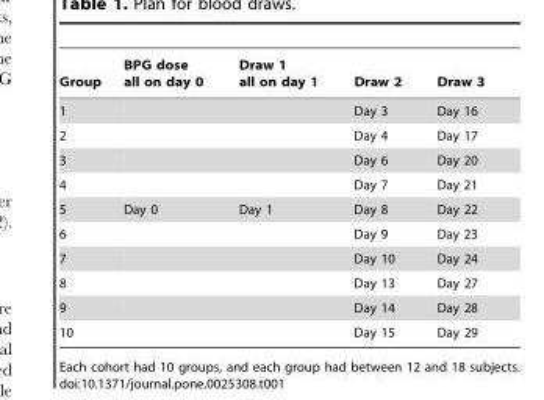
<table><thead><tr><td>Group</td><td>BPG dose all on day 0</td><td>Draw 1 all on day 1</td><td>Draw 2</td><td>Draw 3</td></tr></thead><tbody><tr><td>1</td><td></td><td></td><td>Day 3</td><td>Day 16</td></tr><tr><td>2</td><td></td><td></td><td>Day 4</td><td>Day 17</td></tr><tr><td>3</td><td></td><td></td><td>Day 6</td><td>Day 20</td></tr><tr><td>4</td><td></td><td></td><td>Day 7</td><td>Day 21</td></tr><tr><td>5</td><td>Day 0</td><td>Day 1</td><td>Day 8</td><td>Day 22</td></tr><tr><td>6</td><td></td><td></td><td>Day 9</td><td>Day 23</td></tr><tr><td>7</td><td></td><td></td><td>Day 10</td><td>Day 24</td></tr><tr><td>8</td><td></td><td></td><td>Day 13</td><td>Day 27</td></tr><tr><td>9</td><td></td><td></td><td>Day 14</td><td>Day 28</td></tr><tr><td>10</td><td></td><td></td><td>Day 15</td><td>Day 29</td></tr></tbody></table>